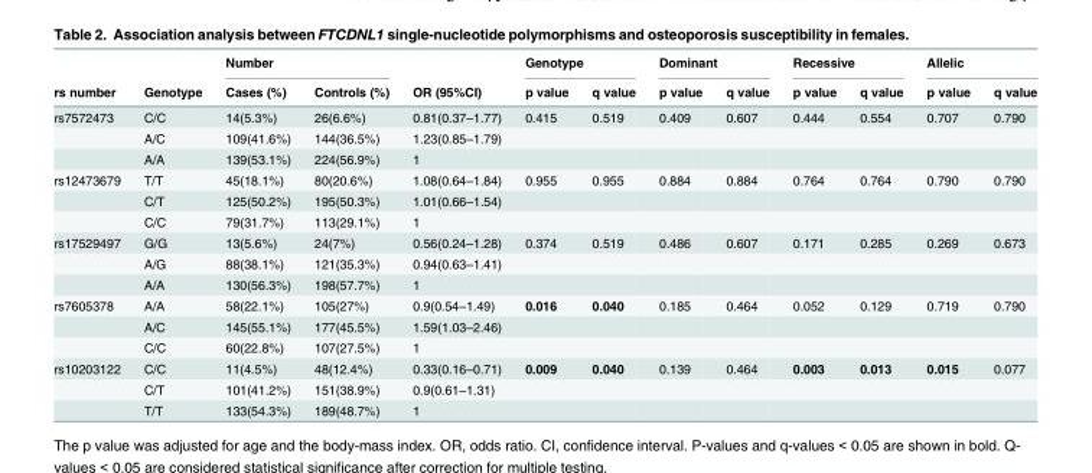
<table><thead><tr><td rowspan="2">rs number</td><td rowspan="2">Genotype</td><td colspan="2">Number</td><td rowspan="2">OR (95%CI)</td><td colspan="2">Genotype</td><td colspan="2">Dominant</td><td colspan="2">Recessive</td><td colspan="2">Allelic</td></tr><tr><td>Cases (%)</td><td>Controls (%)</td><td>p value</td><td>q value</td><td>p value</td><td>q value</td><td>p value</td><td>q value</td><td>p value</td><td>q value</td></tr></thead><tbody><tr><td rowspan="3">rs7572473</td><td>C/C</td><td>14(5.3%)</td><td>26(6.6%)</td><td>0.81(0.37–1.77)</td><td>0.415</td><td>0.519</td><td>0.409</td><td>0.607</td><td>0.444</td><td>0.554</td><td>0.707</td><td>0.790</td></tr><tr><td>A/C</td><td>109(41.6%)</td><td>144(36.5%)</td><td>1.23(0.85–1.79)</td><td></td><td></td><td></td><td></td><td></td><td></td><td></td><td></td></tr><tr><td>A/A</td><td>139(53.1%)</td><td>224(56.9%)</td><td>1</td><td></td><td></td><td></td><td></td><td></td><td></td><td></td><td></td></tr><tr><td rowspan="3">rs12473679</td><td>T/T</td><td>45(18.1%)</td><td>80(20.6%)</td><td>1.08(0.64–1.84)</td><td>0.955</td><td>0.955</td><td>0.884</td><td>0.884</td><td>0.764</td><td>0.764</td><td>0.790</td><td>0.790</td></tr><tr><td>C/T</td><td>125(50.2%)</td><td>195(50.3%)</td><td>1.01(0.66–1.54)</td><td></td><td></td><td></td><td></td><td></td><td></td><td></td><td></td></tr><tr><td>C/C</td><td>79(31.7%)</td><td>113(29.1%)</td><td>1</td><td></td><td></td><td></td><td></td><td></td><td></td><td></td><td></td></tr><tr><td rowspan="3">rs17529497</td><td>G/G</td><td>13(5.6%)</td><td>24(7%)</td><td>0.56(0.24–1.28)</td><td>0.374</td><td>0.519</td><td>0.486</td><td>0.607</td><td>0.171</td><td>0.285</td><td>0.269</td><td>0.673</td></tr><tr><td>A/G</td><td>88(38.1%)</td><td>121(35.3%)</td><td>0.94(0.63–1.41)</td><td></td><td></td><td></td><td></td><td></td><td></td><td></td><td></td></tr><tr><td>A/A</td><td>130(56.3%)</td><td>198(57.7%)</td><td>1</td><td></td><td></td><td></td><td></td><td></td><td></td><td></td><td></td></tr><tr><td rowspan="3">rs7605378</td><td>A/A</td><td>58(22.1%)</td><td>105(27%)</td><td>0.9(0.54–1.49)</td><td>0.016</td><td>0.040</td><td>0.185</td><td>0.464</td><td>0.052</td><td>0.129</td><td>0.719</td><td>0.790</td></tr><tr><td>A/C</td><td>145(55.1%)</td><td>177(45.5%)</td><td>1.59(1.03–2.46)</td><td></td><td></td><td></td><td></td><td></td><td></td><td></td><td></td></tr><tr><td>C/C</td><td>60(22.8%)</td><td>107(27.5%)</td><td>1</td><td></td><td></td><td></td><td></td><td></td><td></td><td></td><td></td></tr><tr><td rowspan="3">rs10203122</td><td>C/C</td><td>11(4.5%)</td><td>48(12.4%)</td><td>0.33(0.16–0.71)</td><td>0.009</td><td>0.040</td><td>0.139</td><td>0.464</td><td>0.003</td><td>0.013</td><td>0.015</td><td>0.077</td></tr><tr><td>C/T</td><td>101(41.2%)</td><td>151(38.9%)</td><td>0.9(0.61–1.31)</td><td></td><td></td><td></td><td></td><td></td><td></td><td></td><td></td></tr><tr><td>T/T</td><td>133(54.3%)</td><td>189(48.7%)</td><td>1</td><td></td><td></td><td></td><td></td><td></td><td></td><td></td><td></td></tr></tbody></table>